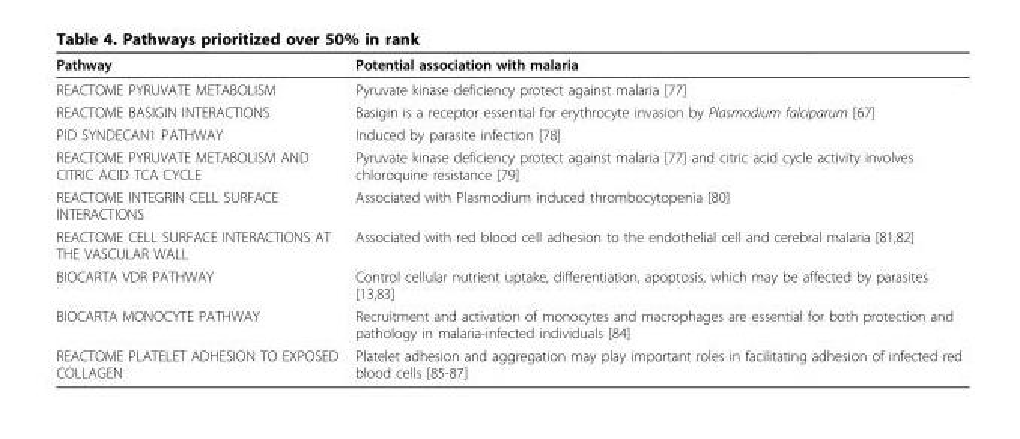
<table><thead><tr><td>Pathway</td><td>Potential association with malaria</td></tr></thead><tbody><tr><td>REACTOME PYRUVATE METABOLISM</td><td>Pyruvate kinase deficiency protect against malaria [77]</td></tr><tr><td>REACTOME BASIGIN INTERACTIONS</td><td>Basigin is a receptor essential for erythrocyte invasion by Plasmodium falciparum [67]</td></tr><tr><td>PID SYNDECAN1 PATHWAY</td><td>Induced by parasite infection [78]</td></tr><tr><td>REACTOME PYRUVATE METABOLISM AND CITRIC ACID TCA CYCLE</td><td>Pyruvate kinase deficiency protect against malaria [77] and citric acid cycle activity involves chloroquine resistance [79]</td></tr><tr><td>REACTOME INTEGRIN CELL SURFACE INTERACTIONS</td><td>Associated with Plasmodium induced thrombocytopenia [80]</td></tr><tr><td>REACTOME CELL SURFACE INTERACTIONS AT THE VASCULAR WALL</td><td>Associated with red blood cell adhesion to the endothelial cell and cerebral malaria [81,82]</td></tr><tr><td>BIOCARTA VDR PATHWAY</td><td>Control cellular nutrient uptake, differentiation, apoptosis, which may be affected by parasites [13,83]</td></tr><tr><td>BIOCARTA MONOCYTE PATHWAY</td><td>Recruitment and activation of monocytes and macrophages are essential for both protection and pathology in malaria-infected individuals [84]</td></tr><tr><td>REACTOME PLATELET ADHESION TO EXPOSED COLLAGEN</td><td>Platelet adhesion and aggregation may play important roles in facilitating adhesion of infected red blood cells [85-87]</td></tr></tbody></table>